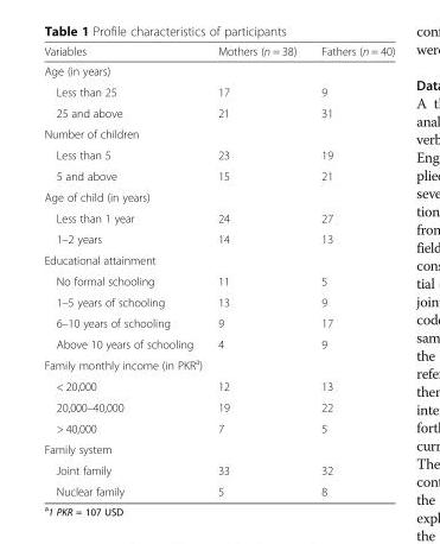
<table><thead><tr><td>Variables</td><td>Mothers (n = 38)</td><td>Fathers (n = 40)</td></tr></thead><tbody><tr><td colspan="3">Age (in years)</td></tr><tr><td>Less than 25</td><td>17</td><td>9</td></tr><tr><td>25 and above</td><td>21</td><td>31</td></tr><tr><td colspan="3">Number of children</td></tr><tr><td>Less than 5</td><td>23</td><td>19</td></tr><tr><td>5 and above</td><td>15</td><td>21</td></tr><tr><td colspan="3">Age of child (in years)</td></tr><tr><td>Less than 1 year</td><td>24</td><td>27</td></tr><tr><td>1–2 years</td><td>14</td><td>13</td></tr><tr><td colspan="3">Educational attainment</td></tr><tr><td>No formal schooling</td><td>11</td><td>5</td></tr><tr><td>1–5 years of schooling</td><td>13</td><td>9</td></tr><tr><td>6–10 years of schooling</td><td>9</td><td>17</td></tr><tr><td>Above 10 years of schooling</td><td>4</td><td>9</td></tr><tr><td colspan="3">Family monthly income (in PKR<sup>a</sup>)</td></tr><tr><td>&lt; 20,000</td><td>12</td><td>13</td></tr><tr><td>20,000–40,000</td><td>19</td><td>22</td></tr><tr><td>&gt; 40,000</td><td>7</td><td>5</td></tr><tr><td colspan="3">Family system</td></tr><tr><td>Joint family</td><td>33</td><td>32</td></tr><tr><td>Nuclear family</td><td>5</td><td>8</td></tr></tbody></table>